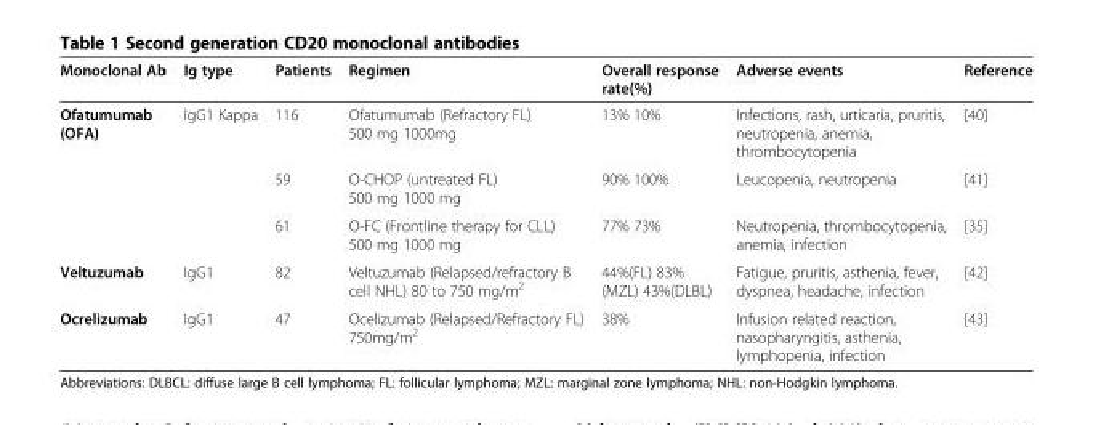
<table><thead><tr><td>Monoclonal Ab</td><td>Ig type</td><td>Patients</td><td>Regimen</td><td>Overall response rate(%)</td><td>Adverse events</td><td>Reference</td></tr></thead><tbody><tr><td rowspan="3">Ofatumumab (OFA)</td><td rowspan="3">IgG1 Kappa</td><td>116</td><td>Ofatumumab (Refractory FL) 500 mg 1000mg</td><td>13% 10%</td><td>Infections, rash, urticaria, pruritis, neutropenia, anemia, thrombocytopenia</td><td>[40]</td></tr><tr><td>59</td><td>O-CHOP (untreated FL) 500 mg 1000 mg</td><td>90% 100%</td><td>Leucopenia, neutropenia</td><td>[41]</td></tr><tr><td>61</td><td>O-FC (Frontline therapy for CLL) 500 mg 1000 mg</td><td>77% 73%</td><td>Neutropenia, thrombocytopenia, anemia, infection</td><td>[35]</td></tr><tr><td>Veltuzumab</td><td>IgG1</td><td>82</td><td>Veltuzumab (Relapsed/refractory B cell NHL) 80 to 750 mg/m<sup>2</sup></td><td>44%(FL) 83% (MZL) 43%(DLBL)</td><td>Fatigue, pruritis, asthenia, fever, dyspnea, headache, infection</td><td>[42]</td></tr><tr><td>Ocrelizumab</td><td>IgG1</td><td>47</td><td>Ocelizumab (Relapsed/Refractory FL) 750mg/m<sup>2</sup></td><td>38%</td><td>Infusion related reaction, nasopharyngitis, asthenia, lymphopenia, infection</td><td>[43]</td></tr></tbody></table>